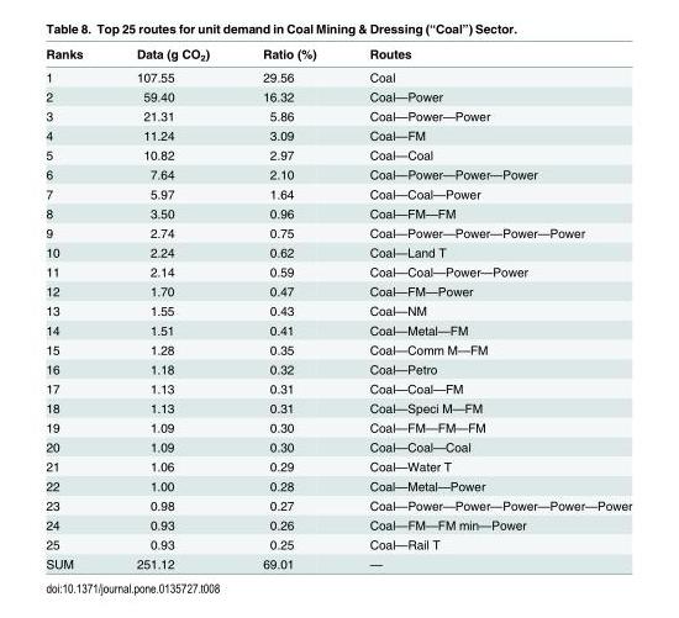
<table><thead><tr><td>Ranks</td><td>Data (g CO<sub>2</sub>)</td><td>Ratio (%)</td><td>Routes</td></tr></thead><tbody><tr><td>1</td><td>107.55</td><td>29.56</td><td>Coal</td></tr><tr><td>2</td><td>59.40</td><td>16.32</td><td>Coal—Power</td></tr><tr><td>3</td><td>21.31</td><td>5.86</td><td>Coal—Power—Power</td></tr><tr><td>4</td><td>11.24</td><td>3.09</td><td>Coal—FM</td></tr><tr><td>5</td><td>10.82</td><td>2.97</td><td>Coal—Coal</td></tr><tr><td>6</td><td>7.64</td><td>2.10</td><td>Coal—Power—Power—Power</td></tr><tr><td>7</td><td>5.97</td><td>1.64</td><td>Coal—Coal—Power</td></tr><tr><td>8</td><td>3.50</td><td>0.96</td><td>Coal—FM—FM</td></tr><tr><td>9</td><td>2.74</td><td>0.75</td><td>Coal—Power—Power—Power—Power</td></tr><tr><td>10</td><td>2.24</td><td>0.62</td><td>Coal—Land T</td></tr><tr><td>11</td><td>2.14</td><td>0.59</td><td>Coal—Coal—Power—Power</td></tr><tr><td>12</td><td>1.70</td><td>0.47</td><td>Coal—FM—Power</td></tr><tr><td>13</td><td>1.55</td><td>0.43</td><td>Coal—NM</td></tr><tr><td>14</td><td>1.51</td><td>0.41</td><td>Coal—Metal—FM</td></tr><tr><td>15</td><td>1.28</td><td>0.35</td><td>Coal—Comm M—FM</td></tr><tr><td>16</td><td>1.18</td><td>0.32</td><td>Coal—Petro</td></tr><tr><td>17</td><td>1.13</td><td>0.31</td><td>Coal—Coal—FM</td></tr><tr><td>18</td><td>1.13</td><td>0.31</td><td>Coal—Speci M—FM</td></tr><tr><td>19</td><td>1.09</td><td>0.30</td><td>Coal—FM—FM—FM</td></tr><tr><td>20</td><td>1.09</td><td>0.30</td><td>Coal—Coal—Coal</td></tr><tr><td>21</td><td>1.06</td><td>0.29</td><td>Coal—Water T</td></tr><tr><td>22</td><td>1.00</td><td>0.28</td><td>Coal—Metal—Power</td></tr><tr><td>23</td><td>0.98</td><td>0.27</td><td>Coal—Power—Power—Power—Power—Power</td></tr><tr><td>24</td><td>0.93</td><td>0.26</td><td>Coal—FM—FM min—Power</td></tr><tr><td>25</td><td>0.93</td><td>0.25</td><td>Coal—Rail T</td></tr><tr><td>SUM</td><td>251.12</td><td>69.01</td><td>—</td></tr></tbody></table>